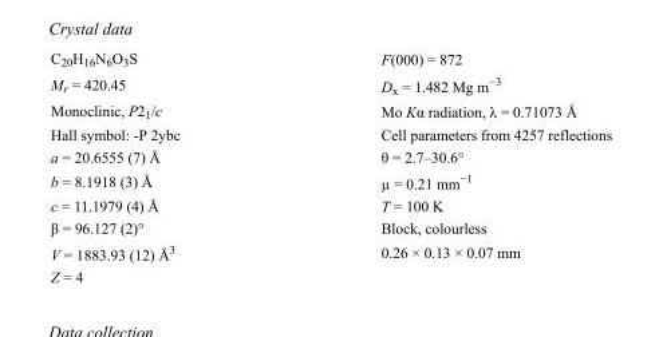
<table><tbody><tr><td>C<sub>20</sub>H<sub>16</sub>N<sub>6</sub>O<sub>3</sub>S</td><td>F(000) = 872</td></tr><tr><td>M<sub>r</sub> = 420.45</td><td>D<sub>x</sub> = 1.482 Mg m<sup>−3</sup></td></tr><tr><td>Monoclinic, P2<sub>1</sub>/c</td><td>Mo Kα radiation, λ = 0.71073 Å</td></tr><tr><td>Hall symbol: -P 2ybc</td><td>Cell parameters from 4257 reflections</td></tr><tr><td>a = 20.6555 (7) Å</td><td>θ = 2.7–30.6°</td></tr><tr><td>b = 8.1918 (3) Å</td><td>µ = 0.21 mm<sup>−1</sup></td></tr><tr><td>c = 11.1979 (4) Å</td><td>T = 100 K</td></tr><tr><td>β = 96.127 (2)°</td><td>Block, colourless</td></tr><tr><td>V = 1883.93 (12) Å<sup>3</sup></td><td>0.26 × 0.13 × 0.07 mm</td></tr><tr><td>Z = 4</td><td></td></tr></tbody></table>